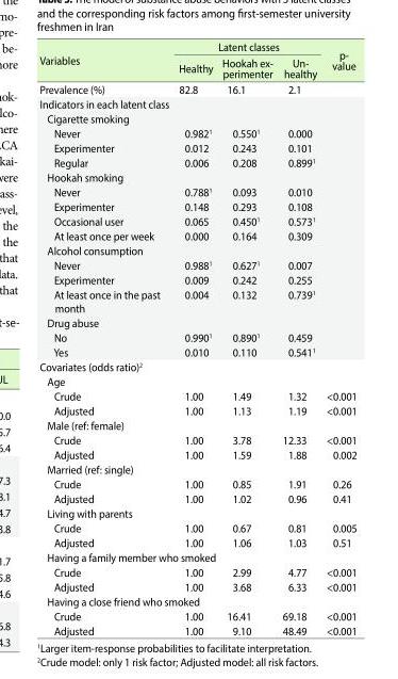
<table><thead><tr><td rowspan="2">Variables</td><td colspan="3">Latent classes</td><td rowspan="2">p- value</td></tr><tr><td>Healthy</td><td>Hookah ex- perimenter</td><td>Un- healthy</td></tr></thead><tbody><tr><td>Prevalence (%)</td><td>82.8</td><td>16.1</td><td>2.1</td><td></td></tr><tr><td colspan="5">Indicators in each latent class</td></tr><tr><td colspan="5">Cigarette smoking</td></tr><tr><td>Never</td><td>0.982<sup>1</sup></td><td>0.550<sup>1</sup></td><td>0.000</td><td></td></tr><tr><td>Experimenter</td><td>0.012</td><td>0.243</td><td>0.101</td><td></td></tr><tr><td>Regular</td><td>0.006</td><td>0.208</td><td>0.899<sup>1</sup></td><td></td></tr><tr><td colspan="5">Hookah smoking</td></tr><tr><td>Never</td><td>0.788<sup>1</sup></td><td>0.093</td><td>0.010</td><td></td></tr><tr><td>Experimenter</td><td>0.148</td><td>0.293</td><td>0.108</td><td></td></tr><tr><td>Occasional user</td><td>0.065</td><td>0.450<sup>1</sup></td><td>0.573<sup>1</sup></td><td></td></tr><tr><td>At least once per week</td><td>0.000</td><td>0.164</td><td>0.309</td><td></td></tr><tr><td colspan="5">Alcohol consumption</td></tr><tr><td>Never</td><td>0.988<sup>1</sup></td><td>0.627<sup>1</sup></td><td>0.007</td><td></td></tr><tr><td>Experimenter</td><td>0.009</td><td>0.242</td><td>0.255</td><td></td></tr><tr><td>At least once in the past month</td><td>0.004</td><td>0.132</td><td>0.739<sup>1</sup></td><td></td></tr><tr><td colspan="5">Drug abuse</td></tr><tr><td>No</td><td>0.990<sup>1</sup></td><td>0.890<sup>1</sup></td><td>0.459</td><td></td></tr><tr><td>Yes</td><td>0.010</td><td>0.110</td><td>0.541<sup>1</sup></td><td></td></tr><tr><td colspan="5">Covariates (odds ratio)<sup>2</sup></td></tr><tr><td colspan="5">Age</td></tr><tr><td>Crude</td><td>1.00</td><td>1.49</td><td>1.32</td><td>&lt;0.001</td></tr><tr><td>Adjusted</td><td>1.00</td><td>1.13</td><td>1.19</td><td>&lt;0.001</td></tr><tr><td colspan="5">Male (ref: female)</td></tr><tr><td>Crude</td><td>1.00</td><td>3.78</td><td>12.33</td><td>&lt;0.001</td></tr><tr><td>Adjusted</td><td>1.00</td><td>1.59</td><td>1.88</td><td>0.002</td></tr><tr><td colspan="5">Married (ref: single)</td></tr><tr><td>Crude</td><td>1.00</td><td>0.85</td><td>1.91</td><td>0.26</td></tr><tr><td>Adjusted</td><td>1.00</td><td>1.02</td><td>0.96</td><td>0.41</td></tr><tr><td colspan="5">Living with parents</td></tr><tr><td>Crude</td><td>1.00</td><td>0.67</td><td>0.81</td><td>0.005</td></tr><tr><td>Adjusted</td><td>1.00</td><td>1.06</td><td>1.03</td><td>0.51</td></tr><tr><td colspan="5">Having a family member who smoked</td></tr><tr><td>Crude</td><td>1.00</td><td>2.99</td><td>4.77</td><td>&lt;0.001</td></tr><tr><td>Adjusted</td><td>1.00</td><td>3.68</td><td>6.33</td><td>&lt;0.001</td></tr><tr><td colspan="5">Having a close friend who smoked</td></tr><tr><td>Crude</td><td>1.00</td><td>16.41</td><td>69.18</td><td>&lt;0.001</td></tr><tr><td>Adjusted</td><td>1.00</td><td>9.10</td><td>48.49</td><td>&lt;0.001</td></tr></tbody></table>